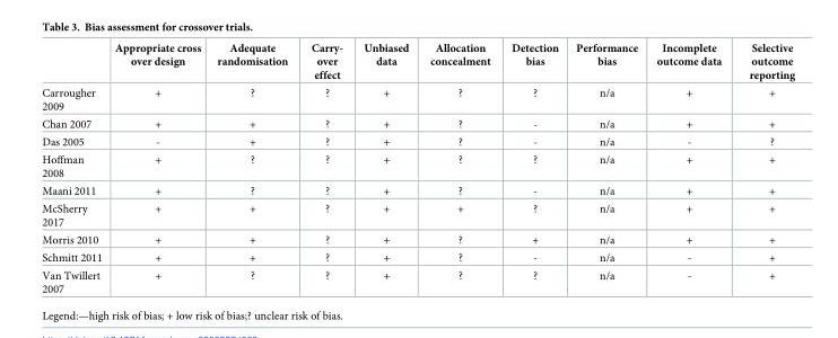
<table><thead><tr><td></td><td>Appropriate cross over design</td><td>Adequate randomisation</td><td>Carry- over effect</td><td>Unbiased data</td><td>Allocation concealment</td><td>Detection bias</td><td>Performance bias</td><td>Incomplete outcome data</td><td>Selective outcome reporting</td></tr></thead><tbody><tr><td>Carrougher 2009</td><td>+</td><td>?</td><td>?</td><td>+</td><td>?</td><td>?</td><td>n/a</td><td>+</td><td>+</td></tr><tr><td>Chan 2007</td><td>+</td><td>+</td><td>?</td><td>+</td><td>?</td><td>-</td><td>n/a</td><td>+</td><td>+</td></tr><tr><td>Das 2005</td><td>-</td><td>+</td><td>?</td><td>+</td><td>?</td><td>-</td><td>n/a</td><td>-</td><td>?</td></tr><tr><td>Hoffman 2008</td><td>+</td><td>?</td><td>?</td><td>+</td><td>?</td><td>?</td><td>n/a</td><td>+</td><td>+</td></tr><tr><td>Maani 2011</td><td>+</td><td>?</td><td>?</td><td>+</td><td>?</td><td>-</td><td>n/a</td><td>+</td><td>+</td></tr><tr><td>McSherry 2017</td><td>+</td><td>+</td><td>?</td><td>+</td><td>+</td><td>?</td><td>n/a</td><td>+</td><td>+</td></tr><tr><td>Morris 2010</td><td>+</td><td>+</td><td>?</td><td>+</td><td>?</td><td>+</td><td>n/a</td><td>+</td><td>+</td></tr><tr><td>Schmitt 2011</td><td>+</td><td>+</td><td>?</td><td>+</td><td>?</td><td>-</td><td>n/a</td><td>-</td><td>+</td></tr><tr><td>Van Twillert 2007</td><td>+</td><td>?</td><td>?</td><td>+</td><td>?</td><td>?</td><td>n/a</td><td>-</td><td>+</td></tr></tbody></table>